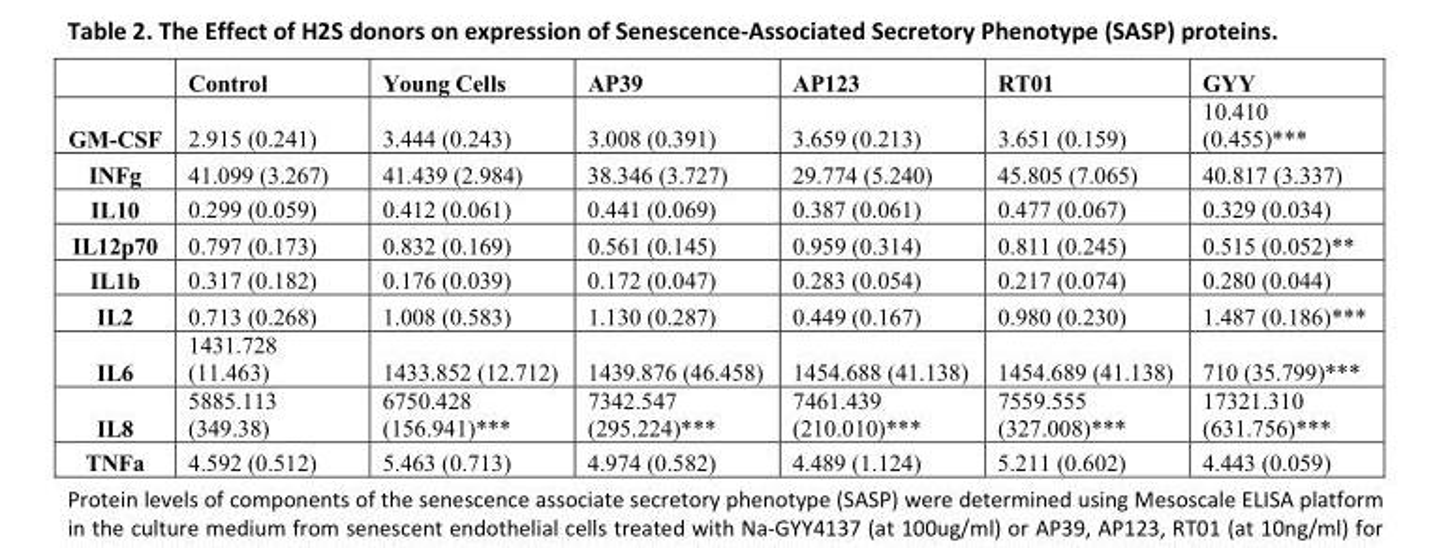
<table><thead><tr><td></td><td>Control</td><td>Young Cells</td><td>AP39</td><td>AP123</td><td>RT01</td><td>GYY</td></tr></thead><tbody><tr><td>GM-CSF</td><td>2.915 (0.241)</td><td>3.444 (0.243)</td><td>3.008 (0.391)</td><td>3.659 (0.213)</td><td>3.651 (0.159)</td><td>10.410 (0.455)***</td></tr><tr><td>INFg</td><td>41.099 (3.267)</td><td>41.439 (2.984)</td><td>38.346 (3.727)</td><td>29.774 (5.240)</td><td>45.805 (7.065)</td><td>40.817 (3.337)</td></tr><tr><td>IL10</td><td>0.299 (0.059)</td><td>0.412 (0.061)</td><td>0.441 (0.069)</td><td>0.387 (0.061)</td><td>0.477 (0.067)</td><td>0.329 (0.034)</td></tr><tr><td>IL12p70</td><td>0.797 (0.173)</td><td>0.832 (0.169)</td><td>0.561 (0.145)</td><td>0.959 (0.314)</td><td>0.811 (0.245)</td><td>0.515 (0.052)**</td></tr><tr><td>IL1b</td><td>0.317 (0.182)</td><td>0.176 (0.039)</td><td>0.172 (0.047)</td><td>0.283 (0.054)</td><td>0.217 (0.074)</td><td>0.280 (0.044)</td></tr><tr><td>IL2</td><td>0.713 (0.268)</td><td>1.008 (0.583)</td><td>1.130 (0.287)</td><td>0.449 (0.167)</td><td>0.980 (0.230)</td><td>1.487 (0.186)***</td></tr><tr><td>IL6</td><td>1431.728 (11.463)</td><td>1433.852 (12.712)</td><td>1439.876 (46.458)</td><td>1454.688 (41.138)</td><td>1454.689 (41.138)</td><td>710 (35.799)***</td></tr><tr><td>IL8</td><td>5885.113 (349.38)</td><td>6750.428 (156.941)***</td><td>7342.547 (295.224)***</td><td>7461.439 (210.010)***</td><td>7559.555 (327.008)***</td><td>17321.310 (631.756)***</td></tr><tr><td>TNFa</td><td>4.592 (0.512)</td><td>5.463 (0.713)</td><td>4.974 (0.582)</td><td>4.489 (1.124)</td><td>5.211 (0.602)</td><td>4.443 (0.059)</td></tr></tbody></table>